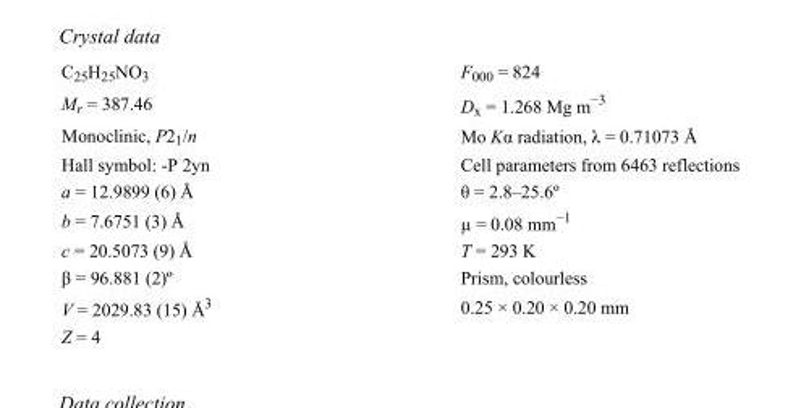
<table><tbody><tr><td>C<sub>25</sub>H<sub>25</sub>NO<sub>3</sub></td><td>F000 = 824</td></tr><tr><td>M<sub>r</sub> = 387.46</td><td>D<sub>x</sub> = 1.268 Mg m<sup>−3</sup></td></tr><tr><td>Monoclinic, P2<sub>1</sub>/n</td><td>Mo Kα radiation, λ = 0.71073 Å</td></tr><tr><td>Hall symbol: -P 2yn</td><td>Cell parameters from 6463 reflections</td></tr><tr><td>a = 12.9899 (6) Å</td><td>θ = 2.8–25.6º</td></tr><tr><td>b = 7.6751 (3) Å</td><td>µ = 0.08 mm<sup>−1</sup></td></tr><tr><td>c = 20.5073 (9) Å</td><td>T = 293 K</td></tr><tr><td>β = 96.881 (2)º</td><td>Prism, colourless</td></tr><tr><td>V = 2029.83 (15) Å<sup>3</sup></td><td>0.25 × 0.20 × 0.20 mm</td></tr><tr><td>Z = 4</td><td></td></tr></tbody></table>